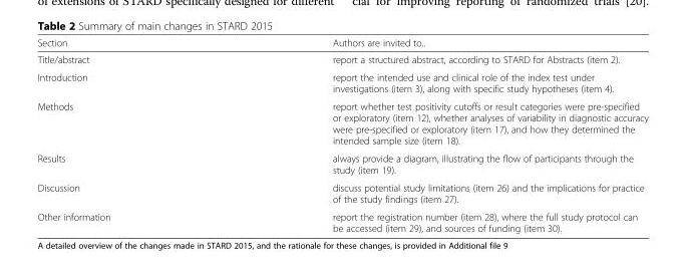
<table><thead><tr><td>Section</td><td>Authors are invited to..</td></tr></thead><tbody><tr><td>Title/abstract</td><td>report a structured abstract, according to STARD for Abstracts (item 2).</td></tr><tr><td>Introduction</td><td>report the intended use and clinical role of the index test under investigations (item 3), along with specific study hypotheses (item 4).</td></tr><tr><td>Methods</td><td>report whether test positivity cutoffs or result categories were pre-specified or exploratory (item 12), whether analyses of variability in diagnostic accuracy were pre-specified or exploratory (item 17), and how they determined the intended sample size (item 18).</td></tr><tr><td>Results</td><td>always provide a diagram, illustrating the flow of participants through the study (item 19).</td></tr><tr><td>Discussion</td><td>discuss potential study limitations (item 26) and the implications for practice of the study findings (item 27).</td></tr><tr><td>Other information</td><td>report the registration number (item 28), where the full study protocol can be accessed (item 29), and sources of funding (item 30).</td></tr></tbody></table>